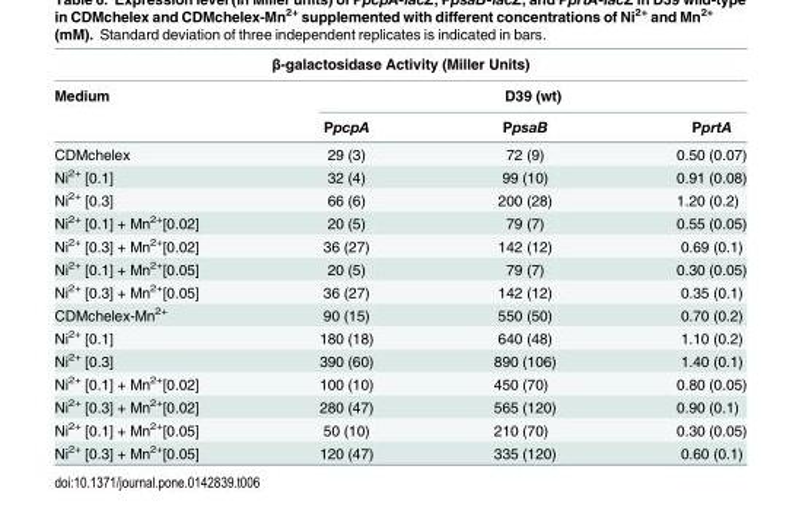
<table><thead><tr><td colspan="4">β-galactosidase Activity (Miller Units)</td></tr><tr><td rowspan="2">Medium</td><td colspan="3">D39 (wt)</td></tr><tr><td>PpcpA</td><td>PpsaB</td><td>PprtA</td></tr></thead><tbody><tr><td>CDMchelex</td><td>29 (3)</td><td>72 (9)</td><td>0.50 (0.07)</td></tr><tr><td>Ni<sup>2+</sup> [0.1]</td><td>32 (4)</td><td>99 (10)</td><td>0.91 (0.08)</td></tr><tr><td>Ni<sup>2+</sup> [0.3]</td><td>66 (6)</td><td>200 (28)</td><td>1.20 (0.2)</td></tr><tr><td>Ni<sup>2+</sup> [0.1] + Mn<sup>2+</sup>[0.02]</td><td>20 (5)</td><td>79 (7)</td><td>0.55 (0.05)</td></tr><tr><td>Ni<sup>2+</sup> [0.3] + Mn<sup>2+</sup>[0.02]</td><td>36 (27)</td><td>142 (12)</td><td>0.69 (0.1)</td></tr><tr><td>Ni<sup>2+</sup> [0.1] + Mn<sup>2+</sup>[0.05]</td><td>20 (5)</td><td>79 (7)</td><td>0.30 (0.05)</td></tr><tr><td>Ni<sup>2+</sup> [0.3] + Mn<sup>2+</sup>[0.05]</td><td>36 (27)</td><td>142 (12)</td><td>0.35 (0.1)</td></tr><tr><td>CDMchelex-Mn<sup>2+</sup></td><td>90 (15)</td><td>550 (50)</td><td>0.70 (0.2)</td></tr><tr><td>Ni<sup>2+</sup> [0.1]</td><td>180 (18)</td><td>640 (48)</td><td>1.10 (0.2)</td></tr><tr><td>Ni<sup>2+</sup> [0.3]</td><td>390 (60)</td><td>890 (106)</td><td>1.40 (0.1)</td></tr><tr><td>Ni<sup>2+</sup> [0.1] + Mn<sup>2+</sup>[0.02]</td><td>100 (10)</td><td>450 (70)</td><td>0.80 (0.05)</td></tr><tr><td>Ni<sup>2+</sup> [0.3] + Mn<sup>2+</sup>[0.02]</td><td>280 (47)</td><td>565 (120)</td><td>0.90 (0.1)</td></tr><tr><td>Ni<sup>2+</sup> [0.1] + Mn<sup>2+</sup>[0.05]</td><td>50 (10)</td><td>210 (70)</td><td>0.30 (0.05)</td></tr><tr><td>Ni<sup>2+</sup> [0.3] + Mn<sup>2+</sup>[0.05]</td><td>120 (47)</td><td>335 (120)</td><td>0.60 (0.1)</td></tr></tbody></table>